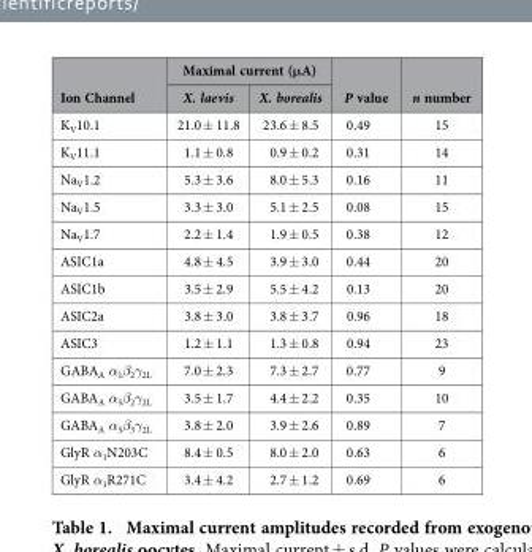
<table><thead><tr><td rowspan="2">Ion Channel</td><td colspan="2">Maximal current (μA)</td><td rowspan="2">P value</td><td rowspan="2">n number</td></tr><tr><td>X. laevis</td><td>X. borealis</td></tr></thead><tbody><tr><td>K<sub>V</sub>10.1</td><td>21.0 ± 11.8</td><td>23.6 ± 8.5</td><td>0.49</td><td>15</td></tr><tr><td>K<sub>V</sub>11.1</td><td>1.1 ± 0.8</td><td>0.9 ± 0.2</td><td>0.31</td><td>14</td></tr><tr><td>Na<sub>V</sub>1.2</td><td>5.3 ± 3.6</td><td>8.0 ± 5.3</td><td>0.16</td><td>11</td></tr><tr><td>Na<sub>V</sub>1.5</td><td>3.3 ± 3.0</td><td>5.1 ± 2.5</td><td>0.08</td><td>15</td></tr><tr><td>Na<sub>V</sub>1.7</td><td>2.2 ± 1.4</td><td>1.9 ± 0.5</td><td>0.38</td><td>12</td></tr><tr><td>ASIC1a</td><td>4.8 ± 4.5</td><td>3.9 ± 3.0</td><td>0.44</td><td>20</td></tr><tr><td>ASIC1b</td><td>3.5 ± 2.9</td><td>5.5 ± 4.2</td><td>0.13</td><td>20</td></tr><tr><td>ASIC2a</td><td>3.8 ± 3.0</td><td>3.8 ± 3.7</td><td>0.96</td><td>18</td></tr><tr><td>ASIC3</td><td>1.2 ± 1.1</td><td>1.3 ± 0.8</td><td>0.94</td><td>23</td></tr><tr><td>GABA<sub>A</sub> α<sub>1</sub>β<sub>2</sub>γ<sub>2L</sub></td><td>7.0 ± 2.3</td><td>7.3 ± 2.7</td><td>0.77</td><td>9</td></tr><tr><td>GABA<sub>A</sub> α<sub>5</sub>β<sub>2</sub>γ<sub>2L</sub></td><td>3.5 ± 1.7</td><td>4.4 ± 2.2</td><td>0.35</td><td>10</td></tr><tr><td>GABA<sub>A</sub> α<sub>5</sub>β<sub>3</sub>γ<sub>2L</sub></td><td>3.8 ± 2.0</td><td>3.9 ± 2.6</td><td>0.89</td><td>7</td></tr><tr><td>GlyR α<sub>1</sub>N203C</td><td>8.4 ± 0.5</td><td>8.0 ± 2.0</td><td>0.63</td><td>6</td></tr><tr><td>GlyR α<sub>1</sub>R271C</td><td>3.4 ± 4.2</td><td>2.7 ± 1.2</td><td>0.69</td><td>6</td></tr></tbody></table>